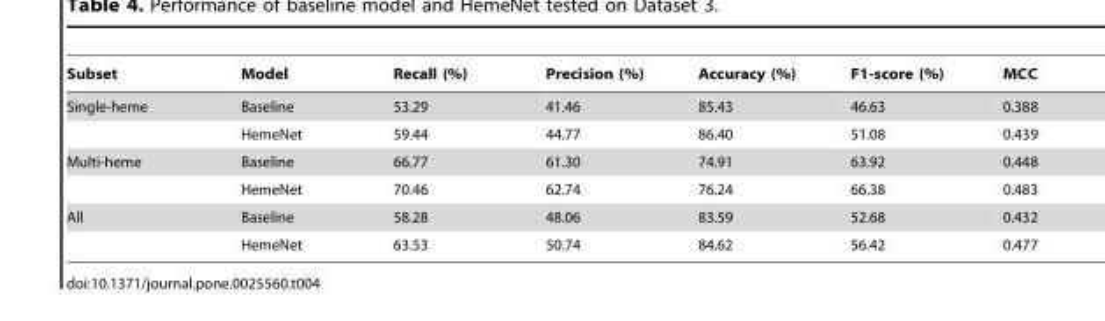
<table><thead><tr><td>Subset</td><td>Model</td><td>Recall (%)</td><td>Precision (%)</td><td>Accuracy (%)</td><td>F1-score (%)</td><td>MCC</td></tr></thead><tbody><tr><td rowspan="2">Single-heme</td><td>Baseline</td><td>53.29</td><td>41.46</td><td>85.43</td><td>46.63</td><td>0.388</td></tr><tr><td>HemeNet</td><td>59.44</td><td>44.77</td><td>86.40</td><td>51.08</td><td>0.439</td></tr><tr><td rowspan="2">Multi-heme</td><td>Baseline</td><td>66.77</td><td>61.30</td><td>74.91</td><td>63.92</td><td>0.448</td></tr><tr><td>HemeNet</td><td>70.46</td><td>62.74</td><td>76.24</td><td>66.38</td><td>0.483</td></tr><tr><td rowspan="2">All</td><td>Baseline</td><td>58.28</td><td>48.06</td><td>83.59</td><td>52.68</td><td>0.432</td></tr><tr><td>HemeNet</td><td>63.53</td><td>50.74</td><td>84.62</td><td>56.42</td><td>0.477</td></tr></tbody></table>